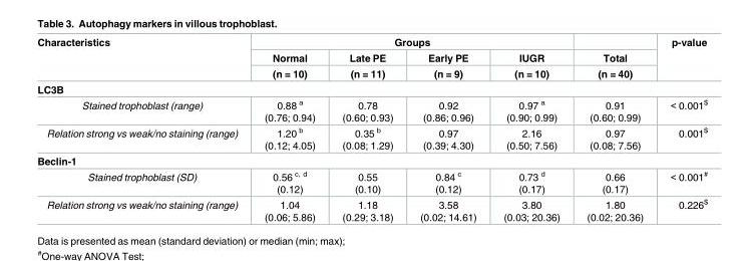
<table><thead><tr><td rowspan="3">Characteristics</td><td colspan="4">Groups</td><td rowspan="3">Total (n = 40)</td><td rowspan="3">p-value</td></tr><tr><td rowspan="2">Normal (n = 10)</td><td rowspan="2">Late PE (n = 11)</td><td rowspan="2">Early PE (n = 9)</td><td rowspan="2">IUGR (n = 10)</td></tr><tr></tr></thead><tbody><tr><td colspan="7">LC3B</td></tr><tr><td>Stained trophoblast (range)</td><td>0.88 <sup>a</sup> (0.76; 0.94)</td><td>0.78 (0.60; 0.93)</td><td>0.92 (0.86; 0.96)</td><td>0.97 <sup>a</sup> (0.90; 0.99)</td><td>0.91 (0.60; 0.99)</td><td>&lt; 0.001<sup>$</sup></td></tr><tr><td>Relation strong vs weak/no staining (range)</td><td>1.20 <sup>b</sup> (0.12; 4.05)</td><td>0.35 <sup>b</sup> (0.08; 1.29)</td><td>0.97 (0.39; 4.30)</td><td>2.16 (0.50; 7.56)</td><td>0.97 (0.08; 7.56)</td><td>0.001<sup>$</sup></td></tr><tr><td colspan="7">Beclin-1</td></tr><tr><td>Stained trophoblast (SD)</td><td>0.56 <sup>c, d</sup> (0.12)</td><td>0.55 (0.10)</td><td>0.84 <sup>c</sup> (0.12)</td><td>0.73 <sup>d</sup> (0.17)</td><td>0.66 (0.17)</td><td>&lt; 0.001<sup>#</sup></td></tr><tr><td>Relation strong vs weak/no staining (range)</td><td>1.04 (0.06; 5.86)</td><td>1.18 (0.29; 3.18)</td><td>3.58 (0.02; 14.61)</td><td>3.80 (0.03; 20.36)</td><td>1.80 (0.02; 20.36)</td><td>0.226<sup>$</sup></td></tr></tbody></table>